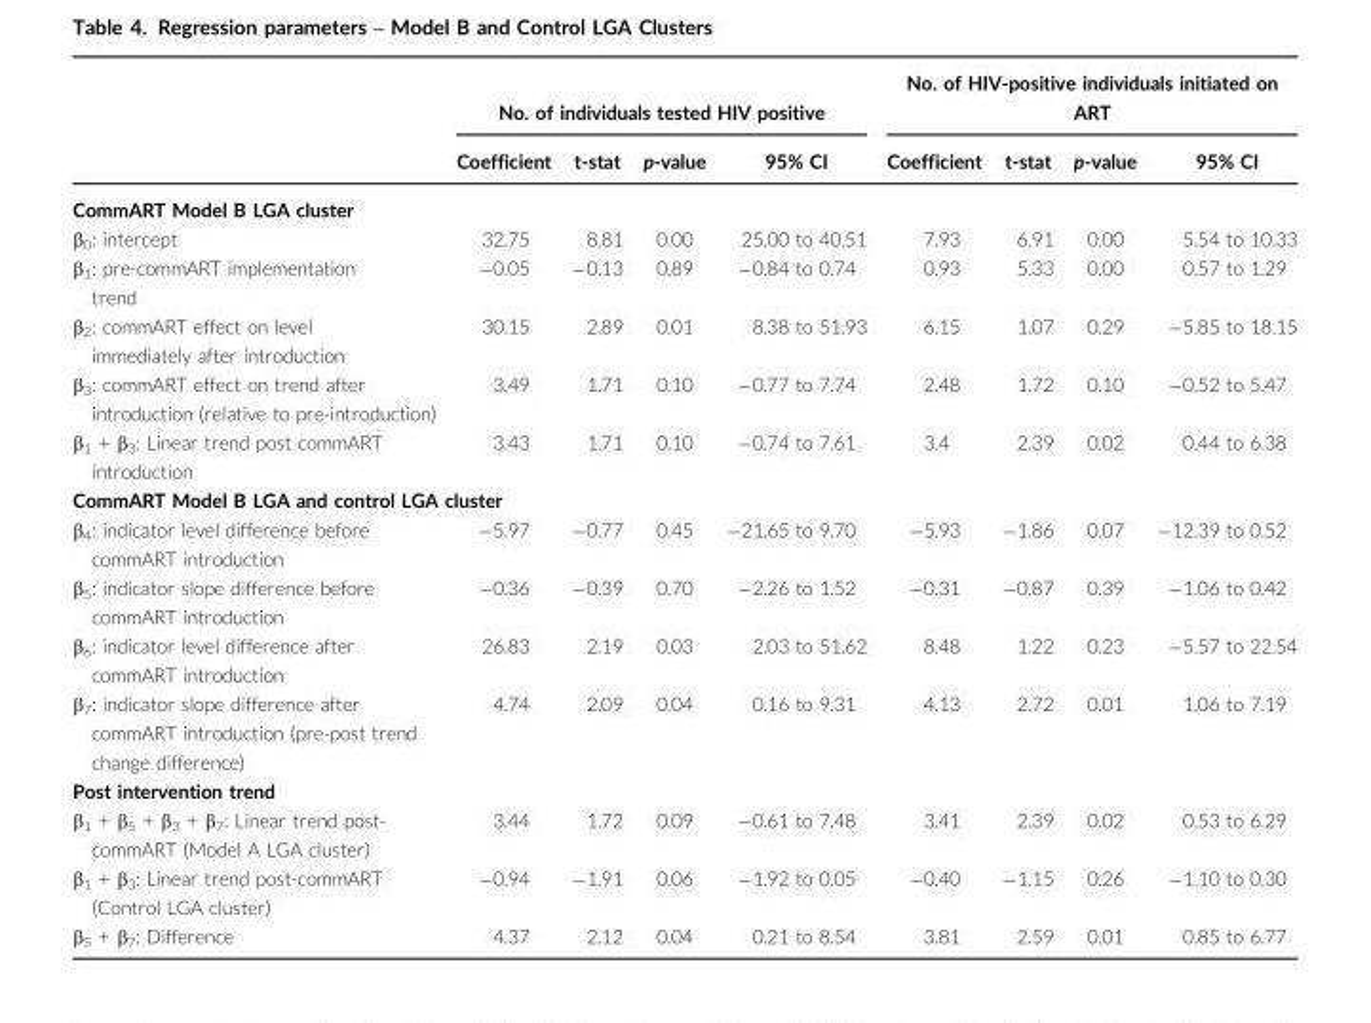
<table><thead><tr><td rowspan="2"></td><td colspan="4">No. of individuals tested HIV positive</td><td colspan="4">No. of HIV-positive individuals initiated on ART</td></tr><tr><td>Coefficient</td><td>t-stat</td><td>p-value</td><td>95% CI</td><td>Coefficient</td><td>t-stat</td><td>p-value</td><td>95% CI</td></tr></thead><tbody><tr><td colspan="9">CommART Model B LGA cluster</td></tr><tr><td>β<sub>0</sub>: intercept</td><td>32.75</td><td>8.81</td><td>0.00</td><td>25.00 to 40.51</td><td>7.93</td><td>6.91</td><td>0.00</td><td>5.54 to 10.33</td></tr><tr><td>β<sub>1</sub>: pre-commART implementation trend</td><td>−0.05</td><td>−0.13</td><td>0.89</td><td>−0.84 to 0.74</td><td>0.93</td><td>5.33</td><td>0.00</td><td>0.57 to 1.29</td></tr><tr><td>β<sub>2</sub>: commART effect on level immediately after introduction</td><td>30.15</td><td>2.89</td><td>0.01</td><td>8.38 to 51.93</td><td>6.15</td><td>1.07</td><td>0.29</td><td>−5.85 to 18.15</td></tr><tr><td>β<sub>3</sub>: commART effect on trend after introduction (relative to pre-introduction)</td><td>3.49</td><td>1.71</td><td>0.10</td><td>−0.77 to 7.74</td><td>2.48</td><td>1.72</td><td>0.10</td><td>−0.52 to 5.47</td></tr><tr><td>β<sub>1</sub> + β<sub>3</sub>: Linear trend post commART introduction</td><td>3.43</td><td>1.71</td><td>0.10</td><td>−0.74 to 7.61</td><td>3.4</td><td>2.39</td><td>0.02</td><td>0.44 to 6.38</td></tr><tr><td colspan="9">CommART Model B LGA and control LGA cluster</td></tr><tr><td>β<sub>4</sub>: indicator level difference before commART introduction</td><td>−5.97</td><td>−0.77</td><td>0.45</td><td>−21.65 to 9.70</td><td>−5.93</td><td>−1.86</td><td>0.07</td><td>−12.39 to 0.52</td></tr><tr><td>β<sub>5</sub>: indicator slope difference before commART introduction</td><td>−0.36</td><td>−0.39</td><td>0.70</td><td>−2.26 to 1.52</td><td>−0.31</td><td>−0.87</td><td>0.39</td><td>−1.06 to 0.42</td></tr><tr><td>β<sub>6</sub>: indicator level difference after commART introduction</td><td>26.83</td><td>2.19</td><td>0.03</td><td>2.03 to 51.62</td><td>8.48</td><td>1.22</td><td>0.23</td><td>−5.57 to 22.54</td></tr><tr><td>β<sub>7</sub>: indicator slope difference after commART introduction (pre-post trend change difference)</td><td>4.74</td><td>2.09</td><td>0.04</td><td>0.16 to 9.31</td><td>4.13</td><td>2.72</td><td>0.01</td><td>1.06 to 7.19</td></tr><tr><td colspan="9">Post intervention trend</td></tr><tr><td>β<sub>1</sub> + β<sub>5</sub> + β<sub>3</sub> + β<sub>7</sub>: Linear trend post- commART (Model A LGA cluster)</td><td>3.44</td><td>1.72</td><td>0.09</td><td>−0.61 to 7.48</td><td>3.41</td><td>2.39</td><td>0.02</td><td>0.53 to 6.29</td></tr><tr><td>β<sub>1</sub> + β<sub>3</sub>: Linear trend post-commART (Control LGA cluster)</td><td>−0.94</td><td>−1.91</td><td>0.06</td><td>−1.92 to 0.05</td><td>−0.40</td><td>−1.15</td><td>0.26</td><td>−1.10 to 0.30</td></tr><tr><td>β<sub>5</sub> + β<sub>7</sub>: Difference</td><td>4.37</td><td>2.12</td><td>0.04</td><td>0.21 to 8.54</td><td>3.81</td><td>2.59</td><td>0.01</td><td>0.85 to 6.77</td></tr></tbody></table>